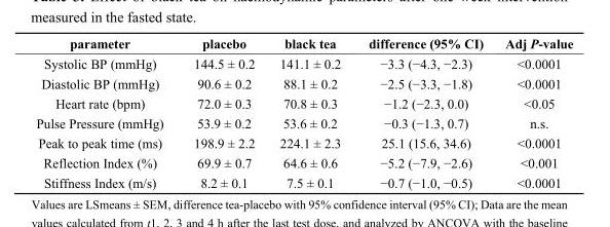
<table><thead><tr><td>parameter</td><td>placebo</td><td>black tea</td><td>difference (95% CI)</td><td>Adj P-value</td></tr></thead><tbody><tr><td>Systolic BP (mmHg)</td><td>144.5 ± 0.2</td><td>141.1 ± 0.2</td><td>−3.3 (−4.3, −2.3)</td><td>&lt;0.0001</td></tr><tr><td>Diastolic BP (mmHg)</td><td>90.6 ± 0.2</td><td>88.1 ± 0.2</td><td>−2.5 (−3.3, −1.8)</td><td>&lt;0.0001</td></tr><tr><td>Heart rate (bpm)</td><td>72.0 ± 0.3</td><td>70.8 ± 0.3</td><td>−1.2 (−2.3, 0.0)</td><td>&lt;0.05</td></tr><tr><td>Pulse Pressure (mmHg)</td><td>53.9 ± 0.2</td><td>53.6 ± 0.2</td><td>−0.3 (−1.3, 0.7)</td><td>n.s.</td></tr><tr><td>Peak to peak time (ms)</td><td>198.9 ± 2.2</td><td>224.1 ± 2.3</td><td>25.1 (15.6, 34.6)</td><td>&lt;0.0001</td></tr><tr><td>Reflection Index (%)</td><td>69.9 ± 0.7</td><td>64.6 ± 0.6</td><td>−5.2 (−7.9, −2.6)</td><td>&lt;0.001</td></tr><tr><td>Stiffness Index (m/s)</td><td>8.2 ± 0.1</td><td>7.5 ± 0.1</td><td>−0.7 (−1.0, −0.5)</td><td>&lt;0.0001</td></tr></tbody></table>